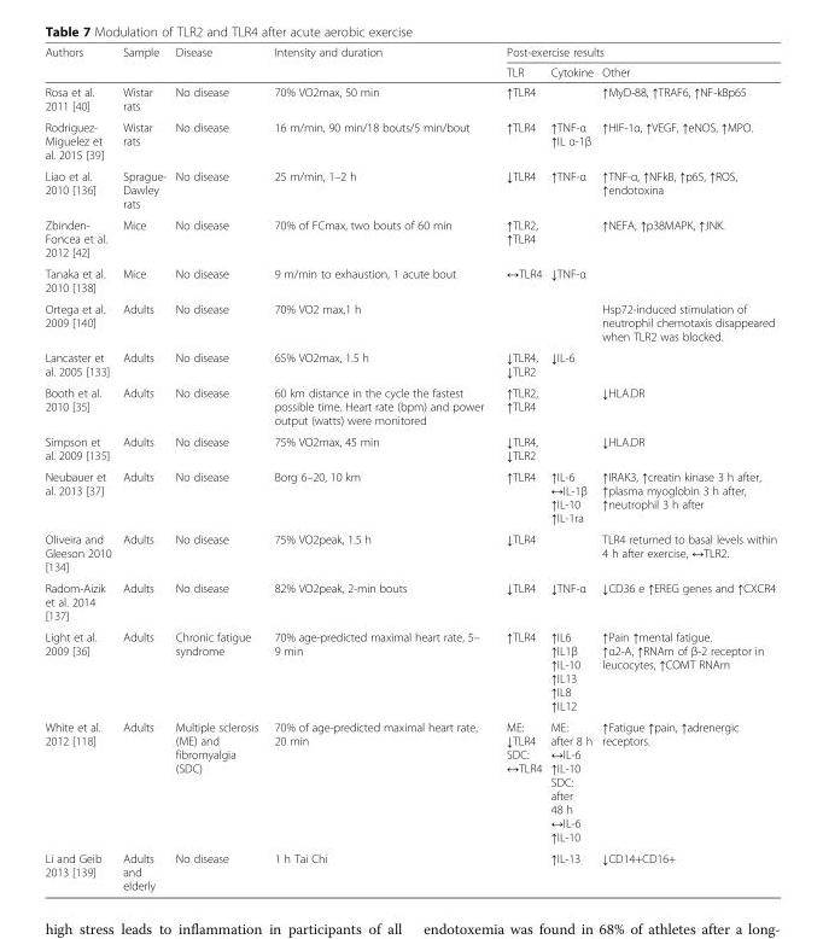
<table><thead><tr><td rowspan="2">Authors</td><td rowspan="2">Sample</td><td rowspan="2">Disease</td><td rowspan="2">Intensity and duration</td><td colspan="3">Post-exercise results</td></tr><tr><td>TLR</td><td>Cytokine</td><td>Other</td></tr></thead><tbody><tr><td>Rosa et al. 2011 [40]</td><td>Wistar rats</td><td>No disease</td><td>70% VO2max, 50 min</td><td>↑TLR4</td><td></td><td>↑MyD-88, ↑TRAF6, ↑NF-kBp65</td></tr><tr><td>Rodriguez- Miguelez et al. 2015 [39]</td><td>Wistar rats</td><td>No disease</td><td>16 m/min, 90 min/18 bouts/5 min/bout</td><td>↑TLR4</td><td>↑TNF-α ↑IL α-1β</td><td>↑HIF-1α, ↑VEGF, ↑eNOS, ↑MPO.</td></tr><tr><td>Liao et al. 2010 [136]</td><td>Sprague- Dawley rats</td><td>No disease</td><td>25 m/min, 1–2 h</td><td>↓TLR4</td><td>↑TNF-α</td><td>↑TNF-α, ↑NFkB, ↑p65, ↑ROS, ↑endotoxina</td></tr><tr><td>Zbinden- Foncea et al. 2012 [42]</td><td>Mice</td><td>No disease</td><td>70% of FCmax, two bouts of 60 min</td><td>↑TLR2, ↑TLR4</td><td></td><td>↑NEFA, ↑p38MAPK, ↑JNK.</td></tr><tr><td>Tanaka et al. 2010 [138]</td><td>Mice</td><td>No disease</td><td>9 m/min to exhaustion, 1 acute bout</td><td>↔TLR4</td><td>↓TNF-α</td><td></td></tr><tr><td>Ortega et al. 2009 [140]</td><td>Adults</td><td>No disease</td><td>70% VO2 max,1 h</td><td></td><td></td><td>Hsp72-induced stimulation of neutrophil chemotaxis disappeared when TLR2 was blocked.</td></tr><tr><td>Lancaster et al. 2005 [133]</td><td>Adults</td><td>No disease</td><td>65% VO2max, 1.5 h</td><td>↓TLR4, ↓TLR2</td><td>↓IL-6</td><td></td></tr><tr><td>Booth et al. 2010 [35]</td><td>Adults</td><td>No disease</td><td>60 km distance in the cycle the fastest possible time. Heart rate (bpm) and power output (watts) were monitored</td><td>↑TLR2, ↑TLR4</td><td></td><td>↓HLA.DR</td></tr><tr><td>Simpson et al. 2009 [135]</td><td>Adults</td><td>No disease</td><td>75% VO2max, 45 min</td><td>↓TLR4, ↓TLR2</td><td></td><td>↓HLA.DR</td></tr><tr><td>Neubauer et al. 2013 [37]</td><td>Adults</td><td>No disease</td><td>Borg 6–20, 10 km</td><td>↑TLR4</td><td>↑IL-6 ↔IL-1β ↑IL-10 ↑IL-1ra</td><td>↑IRAK3, ↑creatin kinase 3 h after, ↑plasma myoglobin 3 h after, ↑neutrophil 3 h after</td></tr><tr><td>Oliveira and Gleeson 2010 [134]</td><td>Adults</td><td>No disease</td><td>75% VO2peak, 1.5 h</td><td>↓TLR4</td><td></td><td>TLR4 returned to basal levels within 4 h after exercise, ↔TLR2.</td></tr><tr><td>Radom-Aizik et al. 2014 [137]</td><td>Adults</td><td>No disease</td><td>82% VO2peak, 2-min bouts</td><td>↓TLR4</td><td>↓TNF-α</td><td>↓CD36 e ↑EREG genes and ↑CXCR4</td></tr><tr><td>Light et al. 2009 [36]</td><td>Adults</td><td>Chronic fatigue syndrome</td><td>70% age-predicted maximal heart rate, 5– 9 min</td><td>↑TLR4</td><td>↑IL6 ↑IL1β ↑IL-10 ↑IL13 ↑IL8 ↑IL12</td><td>↑Pain ↑mental fatigue. ↑α2-A, ↑RNAm of β-2 receptor in leucocytes, ↑COMT RNAm</td></tr><tr><td>White et al. 2012 [118]</td><td>Adults</td><td>Multiple sclerosis (ME) and fibromyalgia (SDC)</td><td>70% of age-predicted maximal heart rate, 20 min</td><td>ME: ↓TLR4 SDC: ↔TLR4</td><td>ME: after 8 h ↔IL-6 ↑IL-10 SDC: after 48 h ↔IL-6 ↑IL-10</td><td>↑Fatigue ↑pain, ↑adrenergic receptors.</td></tr><tr><td>Li and Geib 2013 [139]</td><td>Adults and elderly</td><td>No disease</td><td>1 h Tai Chi</td><td></td><td>↑IL-13</td><td>↓CD14+CD16+</td></tr></tbody></table>